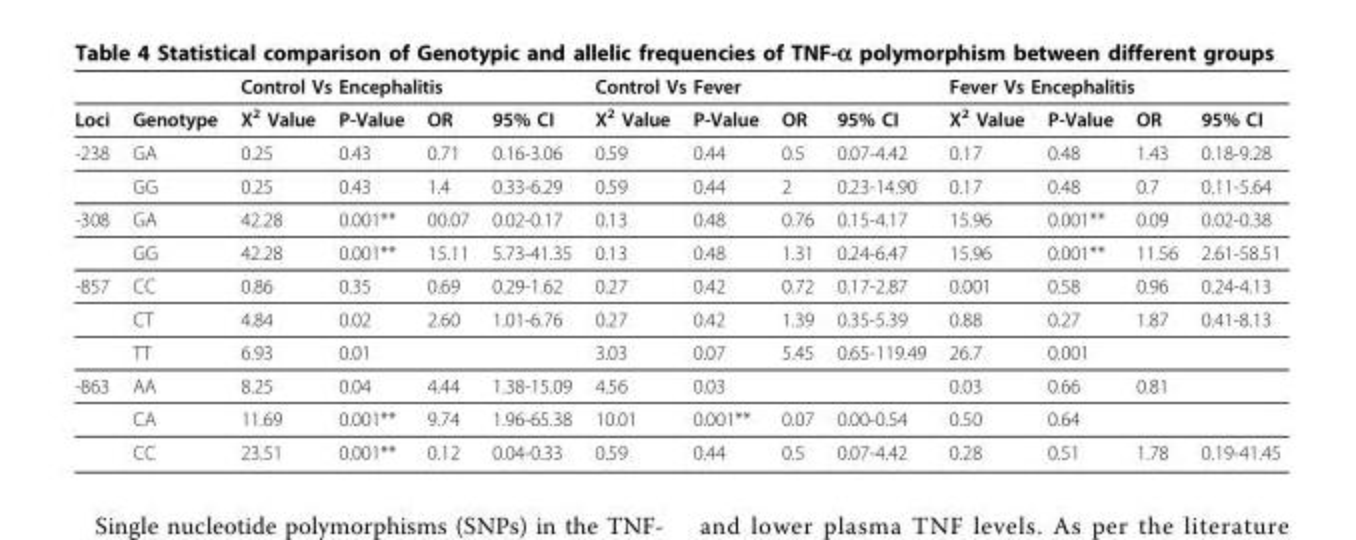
<table><thead><tr><td rowspan="2">Loci</td><td rowspan="2">Genotype</td><td colspan="4">Control Vs Encephalitis</td><td colspan="4">Control Vs Fever</td><td colspan="4">Fever Vs Encephalitis</td></tr><tr><td>Χ<sup>2</sup> Value</td><td>P-Value</td><td>OR</td><td>95% CI</td><td>Χ<sup>2</sup> Value</td><td>P-Value</td><td>OR</td><td>95% CI</td><td>Χ<sup>2</sup> Value</td><td>P-Value</td><td>OR</td><td>95% CI</td></tr></thead><tbody><tr><td rowspan="2">-238</td><td>GA</td><td>0.25</td><td>0.43</td><td>0.71</td><td>0.16-3.06</td><td>0.59</td><td>0.44</td><td>0.5</td><td>0.07-4.42</td><td>0.17</td><td>0.48</td><td>1.43</td><td>0.18-9.28</td></tr><tr><td>GG</td><td>0.25</td><td>0.43</td><td>1.4</td><td>0.33-6.29</td><td>0.59</td><td>0.44</td><td>2</td><td>0.23-14.90</td><td>0.17</td><td>0.48</td><td>0.7</td><td>0.11-5.64</td></tr><tr><td rowspan="2">-308</td><td>GA</td><td>42.28</td><td>0.001**</td><td>00.07</td><td>0.02-0.17</td><td>0.13</td><td>0.48</td><td>0.76</td><td>0.15-4.17</td><td>15.96</td><td>0.001**</td><td>0.09</td><td>0.02-0.38</td></tr><tr><td>GG</td><td>42.28</td><td>0.001**</td><td>15.11</td><td>5.73-41.35</td><td>0.13</td><td>0.48</td><td>1.31</td><td>0.24-6.47</td><td>15.96</td><td>0.001**</td><td>11.56</td><td>2.61-58.51</td></tr><tr><td rowspan="3">-857</td><td>CC</td><td>0.86</td><td>0.35</td><td>0.69</td><td>0.29-1.62</td><td>0.27</td><td>0.42</td><td>0.72</td><td>0.17-2.87</td><td>0.001</td><td>0.58</td><td>0.96</td><td>0.24-4.13</td></tr><tr><td>CT</td><td>4.84</td><td>0.02</td><td>2.60</td><td>1.01-6.76</td><td>0.27</td><td>0.42</td><td>1.39</td><td>0.35-5.39</td><td>0.88</td><td>0.27</td><td>1.87</td><td>0.41-8.13</td></tr><tr><td>TT</td><td>6.93</td><td>0.01</td><td></td><td></td><td>3.03</td><td>0.07</td><td>5.45</td><td>0.65-119.49</td><td>26.7</td><td>0.001</td><td></td><td></td></tr><tr><td rowspan="3">-863</td><td>AA</td><td>8.25</td><td>0.04</td><td>4.44</td><td>1.38-15.09</td><td>4.56</td><td>0.03</td><td></td><td></td><td>0.03</td><td>0.66</td><td>0.81</td><td></td></tr><tr><td>CA</td><td>11.69</td><td>0.001**</td><td>9.74</td><td>1.96-65.38</td><td>10.01</td><td>0.001**</td><td>0.07</td><td>0.00-0.54</td><td>0.50</td><td>0.64</td><td></td><td></td></tr><tr><td>CC</td><td>23.51</td><td>0.001**</td><td>0.12</td><td>0.04-0.33</td><td>0.59</td><td>0.44</td><td>0.5</td><td>0.07-4.42</td><td>0.28</td><td>0.51</td><td>1.78</td><td>0.19-41.45</td></tr></tbody></table>